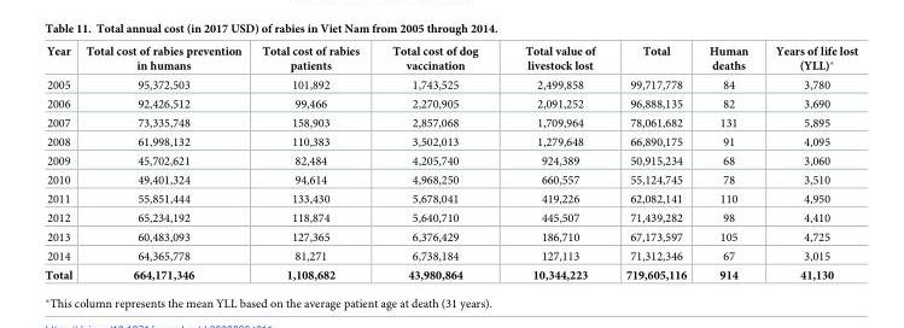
<table><thead><tr><td>Year</td><td>Total cost of rabies prevention in humans</td><td>Total cost of rabies patients</td><td>Total cost of dog vaccination</td><td>Total value of livestock lost</td><td>Total</td><td>Human deaths</td><td>Years of life lost (YLL)*</td></tr></thead><tbody><tr><td>2005</td><td>95,372,503</td><td>101,892</td><td>1,743,525</td><td>2,499,858</td><td>99,717,778</td><td>84</td><td>3,780</td></tr><tr><td>2006</td><td>92,426,512</td><td>99,466</td><td>2,270,905</td><td>2,091,252</td><td>96,888,135</td><td>82</td><td>3,690</td></tr><tr><td>2007</td><td>73,335,748</td><td>158,903</td><td>2,857,068</td><td>1,709,964</td><td>78,061,682</td><td>131</td><td>5,895</td></tr><tr><td>2008</td><td>61,998,132</td><td>110,383</td><td>3,502,013</td><td>1,279,648</td><td>66,890,175</td><td>91</td><td>4,095</td></tr><tr><td>2009</td><td>45,702,621</td><td>82,484</td><td>4,205,740</td><td>924,389</td><td>50,915,234</td><td>68</td><td>3,060</td></tr><tr><td>2010</td><td>49,401,324</td><td>94,614</td><td>4,968,250</td><td>660,557</td><td>55,124,745</td><td>78</td><td>3,510</td></tr><tr><td>2011</td><td>55,851,444</td><td>133,430</td><td>5,678,041</td><td>419,226</td><td>62,082,141</td><td>110</td><td>4,950</td></tr><tr><td>2012</td><td>65,234,192</td><td>118,874</td><td>5,640,710</td><td>445,507</td><td>71,439,282</td><td>98</td><td>4,410</td></tr><tr><td>2013</td><td>60,483,093</td><td>127,365</td><td>6,376,429</td><td>186,710</td><td>67,173,597</td><td>105</td><td>4,725</td></tr><tr><td>2014</td><td>64,365,778</td><td>81,271</td><td>6,738,184</td><td>127,113</td><td>71,312,346</td><td>67</td><td>3,015</td></tr><tr><td>Total</td><td>664,171,346</td><td>1,108,682</td><td>43,980,864</td><td>10,344,223</td><td>719,605,116</td><td>914</td><td>41,130</td></tr></tbody></table>